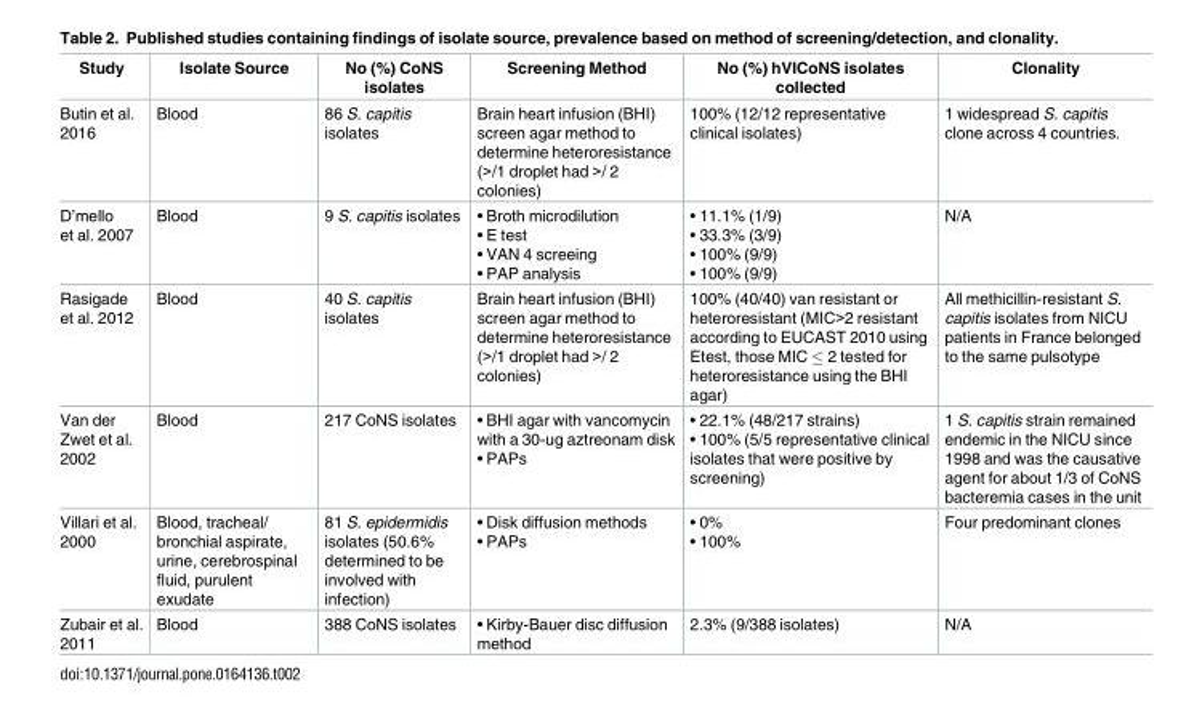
<table><thead><tr><td>Study</td><td>Isolate Source</td><td>No (%) CoNS isolates</td><td>Screening Method</td><td>No (%) hVICoNS isolates collected</td><td>Clonality</td></tr></thead><tbody><tr><td>Butin et al. 2016</td><td>Blood</td><td>86 S. capitis isolates</td><td>Brain heart infusion (BHI) screen agar method to determine heteroresistance (&gt;/1 droplet had &gt;/ 2 colonies)</td><td>100% (12/12 representative clinical isolates)</td><td>1 widespread S. capitis clone across 4 countries.</td></tr><tr><td>D’mello et al. 2007</td><td>Blood</td><td>9 S. capitis isolates</td><td>• Broth microdilution • E test • VAN 4 screeing • PAP analysis</td><td>• 11.1% (1/9) • 33.3% (3/9) • 100% (9/9) • 100% (9/9)</td><td>N/A</td></tr><tr><td>Rasigade et al. 2012</td><td>Blood</td><td>40 S. capitis isolates</td><td>Brain heart infusion (BHI) screen agar method to determine heteroresistance (&gt;/1 droplet had &gt;/ 2 colonies)</td><td>100% (40/40) van resistant or heteroresistant (MIC&gt;2 resistant according to EUCAST 2010 using Etest, those MIC ≤ 2 tested for heteroresistance using the BHI agar)</td><td>All methicillin-resistant S. capitis isolates from NICU patients in France belonged to the same pulsotype</td></tr><tr><td>Van der Zwet et al. 2002</td><td>Blood</td><td>217 CoNS isolates</td><td>• BHI agar with vancomycin with a 30-ug aztreonam disk • PAPs</td><td>• 22.1% (48/217 strains) • 100% (5/5 representative clinical isolates that were positive by screening)</td><td>1 S. capitis strain remained endemic in the NICU since 1998 and was the causative agent for about 1/3 of CoNS bacteremia cases in the unit</td></tr><tr><td>Villari et al. 2000</td><td>Blood, tracheal/ bronchial aspirate, urine, cerebrospinal fluid, purulent exudate</td><td>81 S. epidermidis isolates (50.6% determined to be involved with infection)</td><td>• Disk diffusion methods • PAPs</td><td>• 0% • 100%</td><td>Four predominant clones</td></tr><tr><td>Zubair et al. 2011</td><td>Blood</td><td>388 CoNS isolates</td><td>• Kirby-Bauer disc diffusion method</td><td>2.3% (9/388 isolates)</td><td>N/A</td></tr></tbody></table>